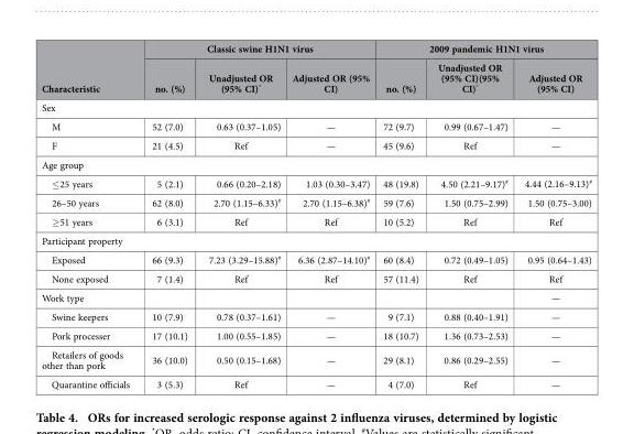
<table><thead><tr><td rowspan="2">Characteristic</td><td colspan="3">Classic swine H1N1 virus</td><td colspan="3">2009 pandemic H1N1 virus</td></tr><tr><td>no. (%)</td><td>Unadjusted OR (95% CI)*</td><td>Adjusted OR (95% CI)</td><td>no. (%)</td><td>Unadjusted OR (95% CI)(95% CI)*</td><td>Adjusted OR (95% CI)</td></tr></thead><tbody><tr><td colspan="7">Sex</td></tr><tr><td>M</td><td>52 (7.0)</td><td>0.63 (0.37–1.05)</td><td>—</td><td>72 (9.7)</td><td>0.99 (0.67–1.47)</td><td>—</td></tr><tr><td>F</td><td>21 (4.5)</td><td>Ref</td><td>—</td><td>45 (9.6)</td><td>Ref</td><td>—</td></tr><tr><td colspan="7">Age group</td></tr><tr><td>≤ 25 years</td><td>5 (2.1)</td><td>0.66 (0.20–2.18)</td><td>1.03 (0.30–3.47)</td><td>48 (19.8)</td><td>4.50 (2.21–9.17)#</td><td>4.44 (2.16–9.13)#</td></tr><tr><td>26–50 years</td><td>62 (8.0)</td><td>2.70 (1.15–6.33)#</td><td>2.70 (1.15–6.38)#</td><td>59 (7.6)</td><td>1.50 (0.75–2.99)</td><td>1.50 (0.75–3.00)</td></tr><tr><td>≥ 51 years</td><td>6 (3.1)</td><td>Ref</td><td>Ref</td><td>10 (5.2)</td><td>Ref</td><td>Ref</td></tr><tr><td colspan="7">Participant property</td></tr><tr><td>Exposed</td><td>66 (9.3)</td><td>7.23 (3.29–15.88)#</td><td>6.36 (2.87–14.10)#</td><td>60 (8.4)</td><td>0.72 (0.49–1.05)</td><td>0.95 (0.64–1.43)</td></tr><tr><td>None exposed</td><td>7 (1.4)</td><td>Ref</td><td>Ref</td><td>57 (11.4)</td><td>Ref</td><td>Ref</td></tr><tr><td>Work type</td><td></td><td></td><td></td><td></td><td></td><td>—</td></tr><tr><td>Swine keepers</td><td>10 (7.9)</td><td>0.78 (0.37–1.61)</td><td>—</td><td>9 (7.1)</td><td>0.88 (0.40–1.91)</td><td>—</td></tr><tr><td>Pork processer</td><td>17 (10.1)</td><td>1.00 (0.55–1.85)</td><td>—</td><td>18 (10.7)</td><td>1.36 (0.73–2.53)</td><td>—</td></tr><tr><td>Retailers of goods other than pork</td><td>36 (10.0)</td><td>0.50 (0.15–1.68)</td><td>—</td><td>29 (8.1)</td><td>0.86 (0.29–2.55)</td><td>—</td></tr><tr><td>Quarantine officials</td><td>3 (5.3)</td><td>Ref</td><td>—</td><td>4 (7.0)</td><td>Ref</td><td>—</td></tr></tbody></table>